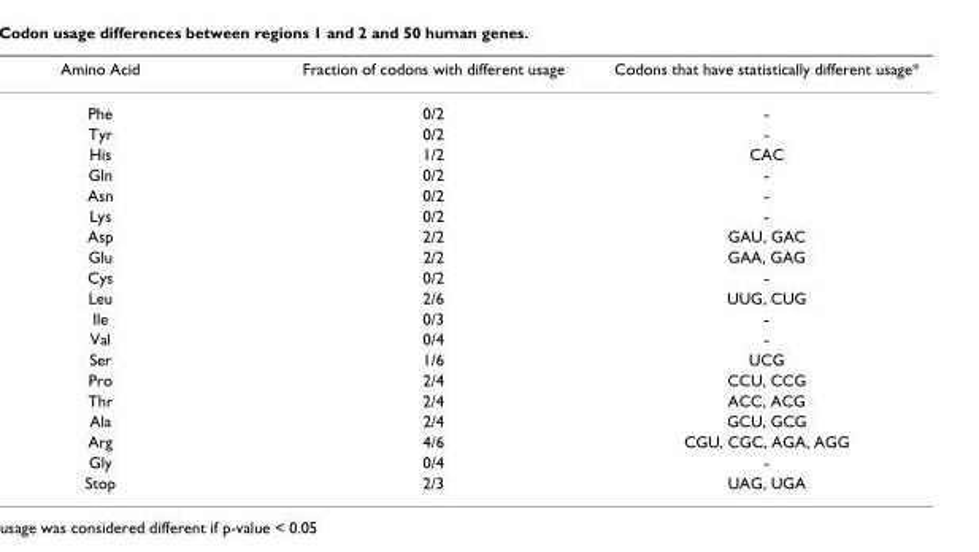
<table><thead><tr><td>Amino Acid</td><td>Fraction of codons with different usage</td><td>Codons that have statistically different usage*</td></tr></thead><tbody><tr><td>Phe</td><td>0/2</td><td>-</td></tr><tr><td>Tyr</td><td>0/2</td><td>-</td></tr><tr><td>His</td><td>1/2</td><td>CAC</td></tr><tr><td>Gln</td><td>0/2</td><td>-</td></tr><tr><td>Asn</td><td>0/2</td><td>-</td></tr><tr><td>Lys</td><td>0/2</td><td>-</td></tr><tr><td>Asp</td><td>2/2</td><td>GAU, GAC</td></tr><tr><td>Glu</td><td>2/2</td><td>GAA, GAG</td></tr><tr><td>Cys</td><td>0/2</td><td>-</td></tr><tr><td>Leu</td><td>2/6</td><td>UUG, CUG</td></tr><tr><td>Ile</td><td>0/3</td><td>-</td></tr><tr><td>Val</td><td>0/4</td><td>-</td></tr><tr><td>Ser</td><td>1/6</td><td>UCG</td></tr><tr><td>Pro</td><td>2/4</td><td>CCU, CCG</td></tr><tr><td>Thr</td><td>2/4</td><td>ACC, ACG</td></tr><tr><td>Ala</td><td>2/4</td><td>GCU, GCG</td></tr><tr><td>Arg</td><td>4/6</td><td>CGU, CGC, AGA, AGG</td></tr><tr><td>Gly</td><td>0/4</td><td>-</td></tr><tr><td>Stop</td><td>2/3</td><td>UAG, UGA</td></tr></tbody></table>